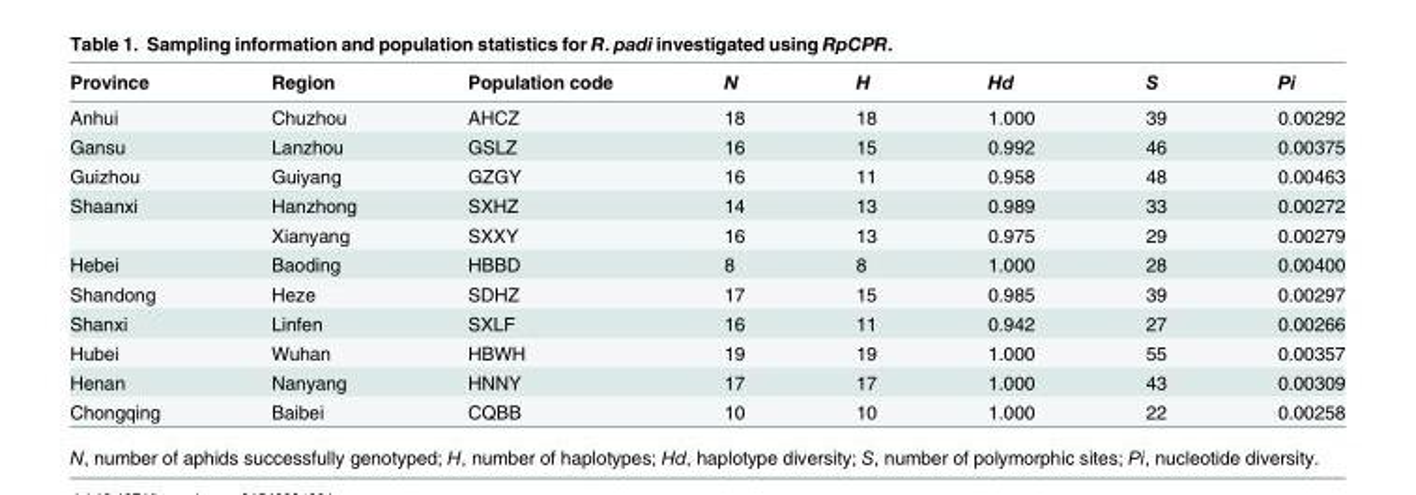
<table><thead><tr><td>Province</td><td>Region</td><td>Population code</td><td>N</td><td>H</td><td>Hd</td><td>S</td><td>Pi</td></tr></thead><tbody><tr><td>Anhui</td><td>Chuzhou</td><td>AHCZ</td><td>18</td><td>18</td><td>1.000</td><td>39</td><td>0.00292</td></tr><tr><td>Gansu</td><td>Lanzhou</td><td>GSLZ</td><td>16</td><td>15</td><td>0.992</td><td>46</td><td>0.00375</td></tr><tr><td>Guizhou</td><td>Guiyang</td><td>GZGY</td><td>16</td><td>11</td><td>0.958</td><td>48</td><td>0.00463</td></tr><tr><td rowspan="2">Shaanxi</td><td>Hanzhong</td><td>SXHZ</td><td>14</td><td>13</td><td>0.989</td><td>33</td><td>0.00272</td></tr><tr><td>Xianyang</td><td>SXXY</td><td>16</td><td>13</td><td>0.975</td><td>29</td><td>0.00279</td></tr><tr><td>Hebei</td><td>Baoding</td><td>HBBD</td><td>8</td><td>8</td><td>1.000</td><td>28</td><td>0.00400</td></tr><tr><td>Shandong</td><td>Heze</td><td>SDHZ</td><td>17</td><td>15</td><td>0.985</td><td>39</td><td>0.00297</td></tr><tr><td>Shanxi</td><td>Linfen</td><td>SXLF</td><td>16</td><td>11</td><td>0.942</td><td>27</td><td>0.00266</td></tr><tr><td>Hubei</td><td>Wuhan</td><td>HBWH</td><td>19</td><td>19</td><td>1.000</td><td>55</td><td>0.00357</td></tr><tr><td>Henan</td><td>Nanyang</td><td>HNNY</td><td>17</td><td>17</td><td>1.000</td><td>43</td><td>0.00309</td></tr><tr><td>Chongqing</td><td>Baibei</td><td>CQBB</td><td>10</td><td>10</td><td>1.000</td><td>22</td><td>0.00258</td></tr></tbody></table>